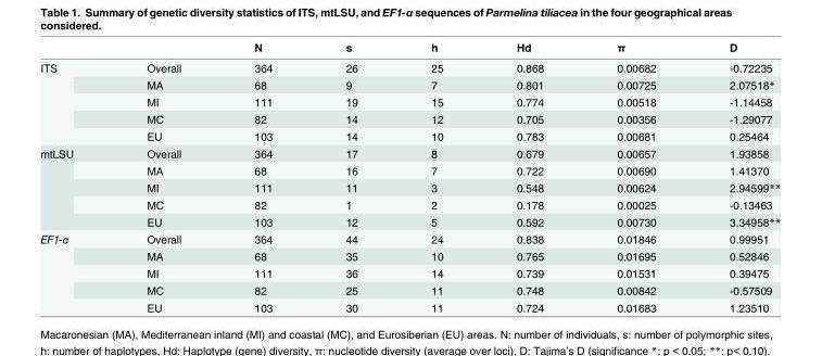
<table><thead><tr><td></td><td></td><td>N</td><td>s</td><td>h</td><td>Hd</td><td>π</td><td>D</td></tr></thead><tbody><tr><td rowspan="5">ITS</td><td>Overall</td><td>364</td><td>26</td><td>25</td><td>0.868</td><td>0.00682</td><td>-0.72235</td></tr><tr><td>MA</td><td>68</td><td>9</td><td>7</td><td>0.801</td><td>0.00725</td><td>2.07518*</td></tr><tr><td>MI</td><td>111</td><td>19</td><td>15</td><td>0.774</td><td>0.00518</td><td>-1.14458</td></tr><tr><td>MC</td><td>82</td><td>14</td><td>12</td><td>0.705</td><td>0.00356</td><td>-1.29077</td></tr><tr><td>EU</td><td>103</td><td>14</td><td>10</td><td>0.783</td><td>0.00681</td><td>0.25464</td></tr><tr><td rowspan="5">mtLSU</td><td>Overall</td><td>364</td><td>17</td><td>8</td><td>0.679</td><td>0.00657</td><td>1.93858</td></tr><tr><td>MA</td><td>68</td><td>16</td><td>7</td><td>0.722</td><td>0.00690</td><td>1.41370</td></tr><tr><td>MI</td><td>111</td><td>11</td><td>3</td><td>0.548</td><td>0.00624</td><td>2.94599**</td></tr><tr><td>MC</td><td>82</td><td>1</td><td>2</td><td>0.178</td><td>0.00025</td><td>-0.13463</td></tr><tr><td>EU</td><td>103</td><td>12</td><td>5</td><td>0.592</td><td>0.00730</td><td>3.34958**</td></tr><tr><td rowspan="5">EF1-α</td><td>Overall</td><td>364</td><td>44</td><td>24</td><td>0.838</td><td>0.01846</td><td>0.99951</td></tr><tr><td>MA</td><td>68</td><td>35</td><td>10</td><td>0.765</td><td>0.01695</td><td>0.52846</td></tr><tr><td>MI</td><td>111</td><td>36</td><td>14</td><td>0.739</td><td>0.01531</td><td>0.39475</td></tr><tr><td>MC</td><td>82</td><td>25</td><td>11</td><td>0.748</td><td>0.00842</td><td>-0.57509</td></tr><tr><td>EU</td><td>103</td><td>30</td><td>11</td><td>0.724</td><td>0.01683</td><td>1.23510</td></tr></tbody></table>